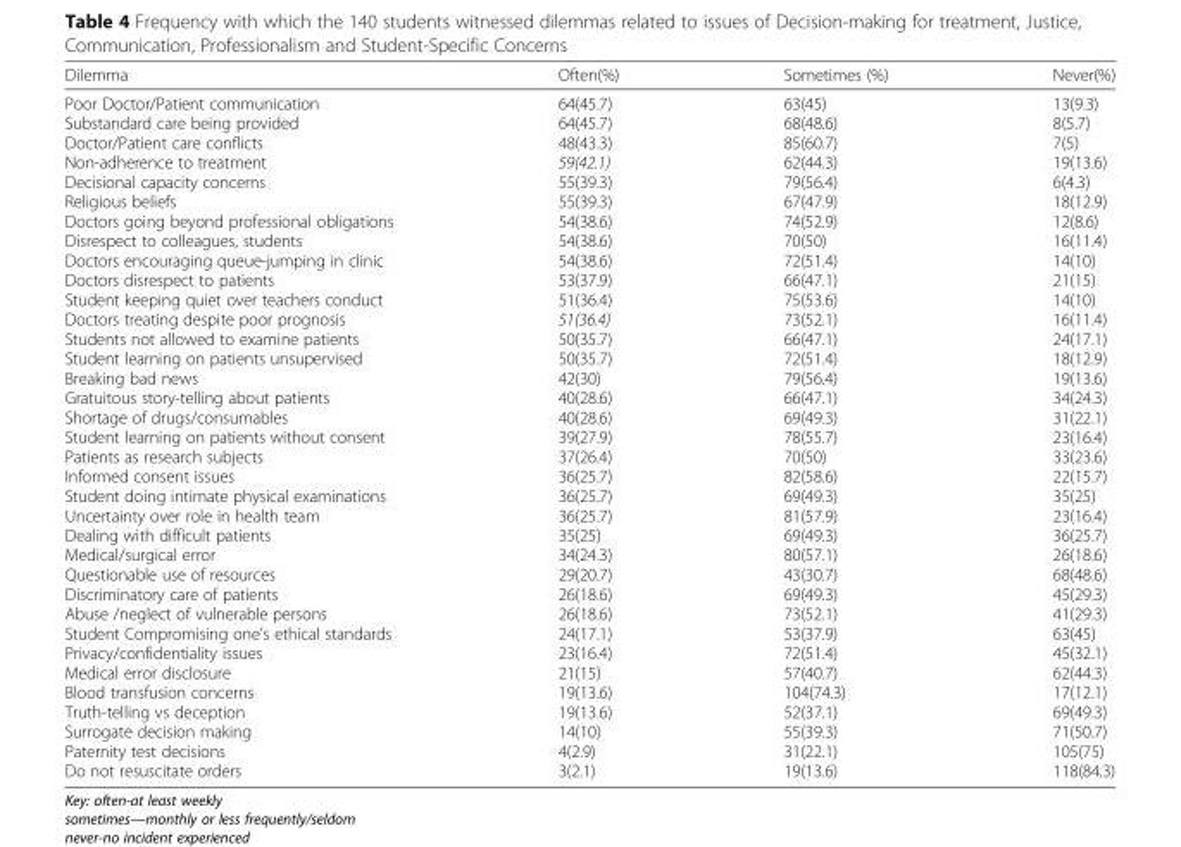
<table><thead><tr><td>Dilemma</td><td>Often(%)</td><td>Sometimes (%)</td><td>Never(%)</td></tr></thead><tbody><tr><td>Poor Doctor/Patient communication Substandard care being provided Doctor/Patient care conflicts Non-adherence to treatment Decisional capacity concerns Religious beliefs Doctors going beyond professional obligations Disrespect to colleagues, students Doctors encouraging queue-jumping in clinic Doctors disrespect to patients Student keeping quiet over teachers conduct Doctors treating despite poor prognosis Students not allowed to examine patients Student learning on patients unsupervised Breaking bad news Gratuitous story-telling about patients Shortage of drugs/consumables Student learning on patients without consent Patients as research subjects Informed consent issues Student doing intimate physical examinations Uncertainty over role in health team Dealing with difficult patients Medical/surgical error Questionable use of resources Discriminatory care of patients Abuse /neglect of vulnerable persons Student Compromising one’s ethical standards Privacy/confidentiality issues Medical error disclosure Blood transfusion concerns Truth-telling vs deception Surrogate decision making Paternity test decisions Do not resuscitate orders</td><td>64(45.7) 64(45.7) 48(43.3) 59(42.1) 55(39.3) 55(39.3) 54(38.6) 54(38.6) 54(38.6) 53(37.9) 51(36.4) 51(36.4) 50(35.7) 50(35.7) 42(30) 40(28.6) 40(28.6) 39(27.9) 37(26.4) 36(25.7) 36(25.7) 36(25.7) 35(25) 34(24.3) 29(20.7) 26(18.6) 26(18.6) 24(17.1) 23(16.4) 21(15) 19(13.6) 19(13.6) 14(10) 4(2.9) 3(2.1)</td><td>63(45) 68(48.6) 85(60.7) 62(44.3) 79(56.4) 67(47.9) 74(52.9) 70(50) 72(51.4) 66(47.1) 75(53.6) 73(52.1) 66(47.1) 72(51.4) 79(56.4) 66(47.1) 69(49.3) 78(55.7) 70(50) 82(58.6) 69(49.3) 81(57.9) 69(49.3) 80(57.1) 43(30.7) 69(49.3) 73(52.1) 53(37.9) 72(51.4) 57(40.7) 104(74.3) 52(37.1) 55(39.3) 31(22.1) 19(13.6)</td><td>13(9.3) 8(5.7) 7(5) 19(13.6) 6(4.3) 18(12.9) 12(8.6) 16(11.4) 14(10) 21(15) 14(10) 16(11.4) 24(17.1) 18(12.9) 19(13.6) 34(24.3) 31(22.1) 23(16.4) 33(23.6) 22(15.7) 35(25) 23(16.4) 36(25.7) 26(18.6) 68(48.6) 45(29.3) 41(29.3) 63(45) 45(32.1) 62(44.3) 17(12.1) 69(49.3) 71(50.7) 105(75) 118(84.3)</td></tr></tbody></table>